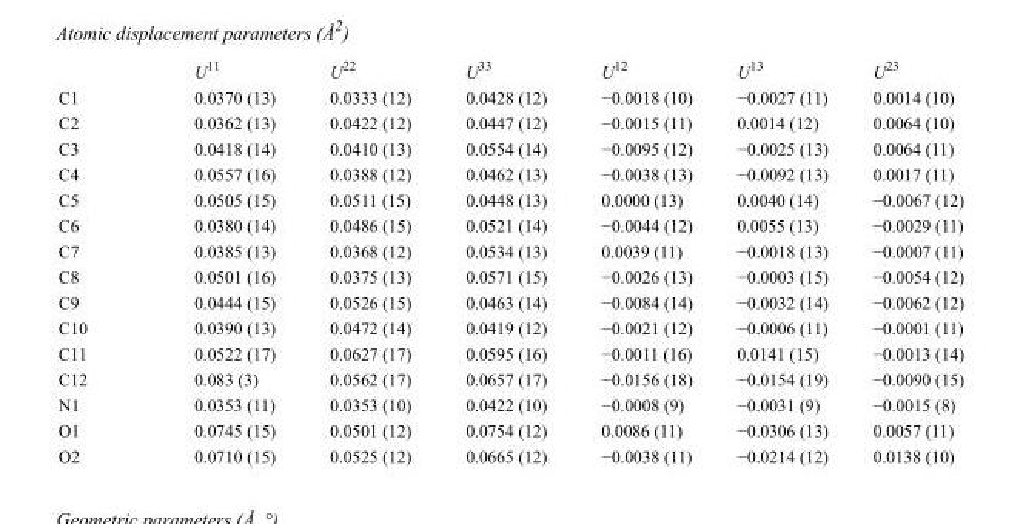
<table><thead><tr><td></td><td>U<sup>11</sup></td><td>U<sup>22</sup></td><td>U<sup>33</sup></td><td>U<sup>12</sup></td><td>U<sup>13</sup></td><td>U<sup>23</sup></td></tr></thead><tbody><tr><td>C1</td><td>0.0370 (13)</td><td>0.0333 (12)</td><td>0.0428 (12)</td><td>−0.0018 (10)</td><td>−0.0027 (11)</td><td>0.0014 (10)</td></tr><tr><td>C2</td><td>0.0362 (13)</td><td>0.0422 (12)</td><td>0.0447 (12)</td><td>−0.0015 (11)</td><td>0.0014 (12)</td><td>0.0064 (10)</td></tr><tr><td>C3</td><td>0.0418 (14)</td><td>0.0410 (13)</td><td>0.0554 (14)</td><td>−0.0095 (12)</td><td>−0.0025 (13)</td><td>0.0064 (11)</td></tr><tr><td>C4</td><td>0.0557 (16)</td><td>0.0388 (12)</td><td>0.0462 (13)</td><td>−0.0038 (13)</td><td>−0.0092 (13)</td><td>0.0017 (11)</td></tr><tr><td>C5</td><td>0.0505 (15)</td><td>0.0511 (15)</td><td>0.0448 (13)</td><td>0.0000 (13)</td><td>0.0040 (14)</td><td>−0.0067 (12)</td></tr><tr><td>C6</td><td>0.0380 (14)</td><td>0.0486 (15)</td><td>0.0521 (14)</td><td>−0.0044 (12)</td><td>0.0055 (13)</td><td>−0.0029 (11)</td></tr><tr><td>C7</td><td>0.0385 (13)</td><td>0.0368 (12)</td><td>0.0534 (13)</td><td>0.0039 (11)</td><td>−0.0018 (13)</td><td>−0.0007 (11)</td></tr><tr><td>C8</td><td>0.0501 (16)</td><td>0.0375 (13)</td><td>0.0571 (15)</td><td>−0.0026 (13)</td><td>−0.0003 (15)</td><td>−0.0054 (12)</td></tr><tr><td>C9</td><td>0.0444 (15)</td><td>0.0526 (15)</td><td>0.0463 (14)</td><td>−0.0084 (14)</td><td>−0.0032 (14)</td><td>−0.0062 (12)</td></tr><tr><td>C10</td><td>0.0390 (13)</td><td>0.0472 (14)</td><td>0.0419 (12)</td><td>−0.0021 (12)</td><td>−0.0006 (11)</td><td>−0.0001 (11)</td></tr><tr><td>C11</td><td>0.0522 (17)</td><td>0.0627 (17)</td><td>0.0595 (16)</td><td>−0.0011 (16)</td><td>0.0141 (15)</td><td>−0.0013 (14)</td></tr><tr><td>C12</td><td>0.083 (3)</td><td>0.0562 (17)</td><td>0.0657 (17)</td><td>−0.0156 (18)</td><td>−0.0154 (19)</td><td>−0.0090 (15)</td></tr><tr><td>N1</td><td>0.0353 (11)</td><td>0.0353 (10)</td><td>0.0422 (10)</td><td>−0.0008 (9)</td><td>−0.0031 (9)</td><td>−0.0015 (8)</td></tr><tr><td>O1</td><td>0.0745 (15)</td><td>0.0501 (12)</td><td>0.0754 (12)</td><td>0.0086 (11)</td><td>−0.0306 (13)</td><td>0.0057 (11)</td></tr><tr><td>O2</td><td>0.0710 (15)</td><td>0.0525 (12)</td><td>0.0665 (12)</td><td>−0.0038 (11)</td><td>−0.0214 (12)</td><td>0.0138 (10)</td></tr></tbody></table>